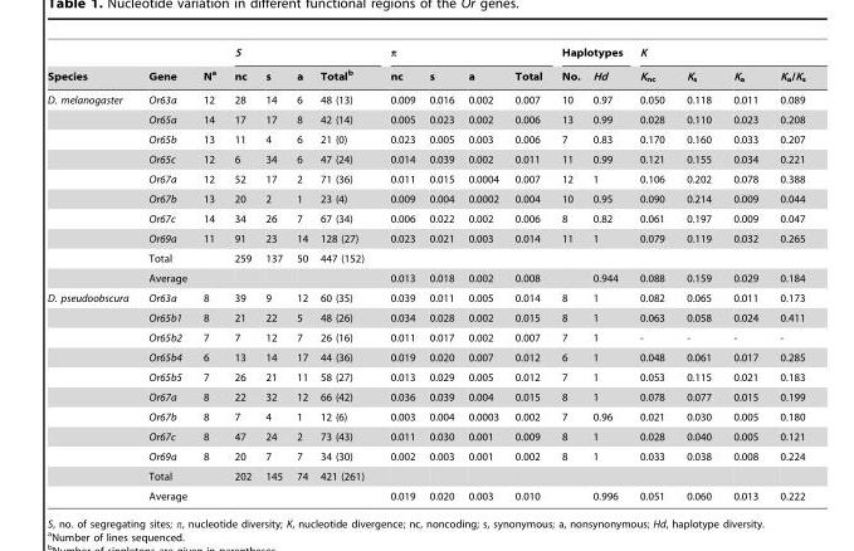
<table><thead><tr><td rowspan="2">Species</td><td rowspan="2">Gene</td><td rowspan="2">N<sup>a</sup></td><td colspan="4">S</td><td colspan="4">π</td><td colspan="2">Haplotypes</td><td colspan="4">K</td></tr><tr><td>nc</td><td>s</td><td>a</td><td>Total<sup>b</sup></td><td>nc</td><td>s</td><td>a</td><td>Total</td><td>No.</td><td>Hd</td><td>K<sub>nc</sub></td><td>K<sub>s</sub></td><td>K<sub>a</sub></td><td>K<sub>a</sub>/K<sub>s</sub></td></tr></thead><tbody><tr><td rowspan="10">D. melanogaster</td><td>Or63a</td><td>12</td><td>28</td><td>14</td><td>6</td><td>48 (13)</td><td>0.009</td><td>0.016</td><td>0.002</td><td>0.007</td><td>10</td><td>0.97</td><td>0.050</td><td>0.118</td><td>0.011</td><td>0.089</td></tr><tr><td>Or65a</td><td>14</td><td>17</td><td>17</td><td>8</td><td>42 (14)</td><td>0.005</td><td>0.023</td><td>0.002</td><td>0.006</td><td>13</td><td>0.99</td><td>0.028</td><td>0.110</td><td>0.023</td><td>0.208</td></tr><tr><td>Or65b</td><td>13</td><td>11</td><td>4</td><td>6</td><td>21 (0)</td><td>0.023</td><td>0.005</td><td>0.003</td><td>0.006</td><td>7</td><td>0.83</td><td>0.170</td><td>0.160</td><td>0.033</td><td>0.207</td></tr><tr><td>Or65c</td><td>12</td><td>6</td><td>34</td><td>6</td><td>47 (24)</td><td>0.014</td><td>0.039</td><td>0.002</td><td>0.011</td><td>11</td><td>0.99</td><td>0.121</td><td>0.155</td><td>0.034</td><td>0.221</td></tr><tr><td>Or67a</td><td>12</td><td>52</td><td>17</td><td>2</td><td>71 (36)</td><td>0.011</td><td>0.015</td><td>0.0004</td><td>0.007</td><td>12</td><td>1</td><td>0.106</td><td>0.202</td><td>0.078</td><td>0.388</td></tr><tr><td>Or67b</td><td>13</td><td>20</td><td>2</td><td>1</td><td>23 (4)</td><td>0.009</td><td>0.004</td><td>0.0002</td><td>0.004</td><td>10</td><td>0.95</td><td>0.090</td><td>0.214</td><td>0.009</td><td>0.044</td></tr><tr><td>Or67c</td><td>14</td><td>34</td><td>26</td><td>7</td><td>67 (34)</td><td>0.006</td><td>0.022</td><td>0.002</td><td>0.006</td><td>8</td><td>0.82</td><td>0.061</td><td>0.197</td><td>0.009</td><td>0.047</td></tr><tr><td>Or69a</td><td>11</td><td>91</td><td>23</td><td>14</td><td>128 (27)</td><td>0.023</td><td>0.021</td><td>0.003</td><td>0.014</td><td>11</td><td>1</td><td>0.079</td><td>0.119</td><td>0.032</td><td>0.265</td></tr><tr><td>Total</td><td></td><td>259</td><td>137</td><td>50</td><td>447 (152)</td><td></td><td></td><td></td><td></td><td></td><td></td><td></td><td></td><td></td><td></td></tr><tr><td>Average</td><td></td><td></td><td></td><td></td><td></td><td>0.013</td><td>0.018</td><td>0.002</td><td>0.008</td><td></td><td>0.944</td><td>0.088</td><td>0.159</td><td>0.029</td><td>0.184</td></tr><tr><td rowspan="11">D. pseudoobscura</td><td>Or63a</td><td>8</td><td>39</td><td>9</td><td>12</td><td>60 (35)</td><td>0.039</td><td>0.011</td><td>0.005</td><td>0.014</td><td>8</td><td>1</td><td>0.082</td><td>0.065</td><td>0.011</td><td>0.173</td></tr><tr><td>Or65b1</td><td>8</td><td>21</td><td>22</td><td>5</td><td>48 (26)</td><td>0.034</td><td>0.028</td><td>0.002</td><td>0.015</td><td>8</td><td>1</td><td>0.063</td><td>0.058</td><td>0.024</td><td>0.411</td></tr><tr><td>Or65b2</td><td>7</td><td>7</td><td>12</td><td>7</td><td>26 (16)</td><td>0.011</td><td>0.017</td><td>0.002</td><td>0.007</td><td>7</td><td>1</td><td>-</td><td>-</td><td>-</td><td>-</td></tr><tr><td>Or65b4</td><td>6</td><td>13</td><td>14</td><td>17</td><td>44 (36)</td><td>0.019</td><td>0.020</td><td>0.007</td><td>0.012</td><td>6</td><td>1</td><td>0.048</td><td>0.061</td><td>0.017</td><td>0.285</td></tr><tr><td>Or65b5</td><td>7</td><td>26</td><td>21</td><td>11</td><td>58 (27)</td><td>0.013</td><td>0.029</td><td>0.005</td><td>0.012</td><td>7</td><td>1</td><td>0.053</td><td>0.115</td><td>0.021</td><td>0.183</td></tr><tr><td>Or67a</td><td>8</td><td>22</td><td>32</td><td>12</td><td>66 (42)</td><td>0.036</td><td>0.039</td><td>0.004</td><td>0.015</td><td>8</td><td>1</td><td>0.078</td><td>0.077</td><td>0.015</td><td>0.199</td></tr><tr><td>Or67b</td><td>8</td><td>7</td><td>4</td><td>1</td><td>12 (6)</td><td>0.003</td><td>0.004</td><td>0.0003</td><td>0.002</td><td>7</td><td>0.96</td><td>0.021</td><td>0.030</td><td>0.005</td><td>0.180</td></tr><tr><td>Or67c</td><td>8</td><td>47</td><td>24</td><td>2</td><td>73 (43)</td><td>0.011</td><td>0.030</td><td>0.001</td><td>0.009</td><td>8</td><td>1</td><td>0.028</td><td>0.040</td><td>0.005</td><td>0.121</td></tr><tr><td>Or69a</td><td>8</td><td>20</td><td>7</td><td>7</td><td>34 (30)</td><td>0.002</td><td>0.003</td><td>0.001</td><td>0.002</td><td>8</td><td>1</td><td>0.033</td><td>0.038</td><td>0.008</td><td>0.224</td></tr><tr><td>Total</td><td></td><td>202</td><td>145</td><td>74</td><td>421 (261)</td><td></td><td></td><td></td><td></td><td></td><td></td><td></td><td></td><td></td><td></td></tr><tr><td>Average</td><td></td><td></td><td></td><td></td><td></td><td>0.019</td><td>0.020</td><td>0.003</td><td>0.010</td><td></td><td>0.996</td><td>0.051</td><td>0.060</td><td>0.013</td><td>0.222</td></tr></tbody></table>